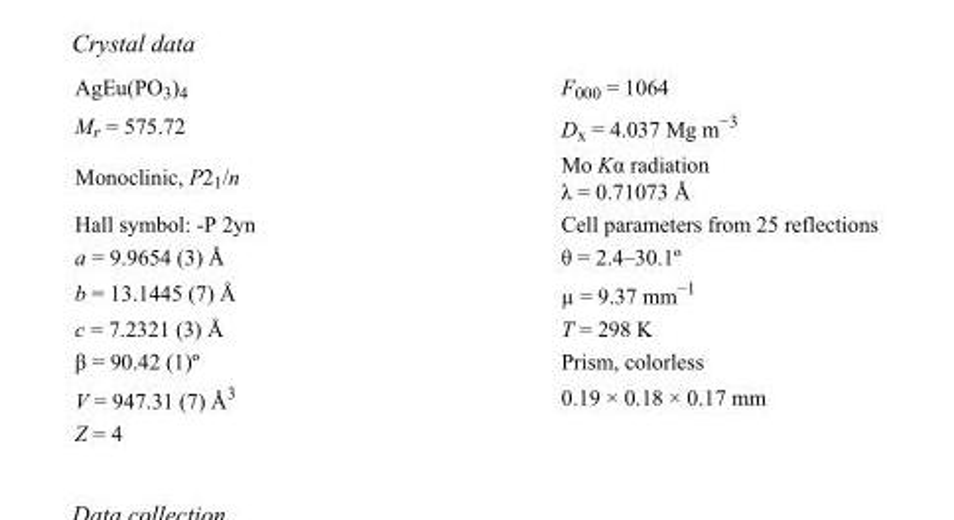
<table><tbody><tr><td>AgEu(PO<sub>3</sub>)<sub>4</sub></td><td>F000 = 1064</td></tr><tr><td>M<sub>r</sub> = 575.72</td><td>D<sub>x</sub> = 4.037 Mg m<sup>−3</sup></td></tr><tr><td>Monoclinic, P2<sub>1</sub>/n</td><td>Mo Kα radiation λ = 0.71073 Å</td></tr><tr><td>Hall symbol: -P 2yn</td><td>Cell parameters from 25 reflections</td></tr><tr><td>a = 9.9654 (3) Å</td><td>θ = 2.4–30.1º</td></tr><tr><td>b = 13.1445 (7) Å</td><td>µ = 9.37 mm<sup>−1</sup></td></tr><tr><td>c = 7.2321 (3) Å</td><td>T = 298 K</td></tr><tr><td>β = 90.42 (1)º</td><td>Prism, colorless</td></tr><tr><td>V = 947.31 (7) Å<sup>3</sup></td><td>0.19 × 0.18 × 0.17 mm</td></tr><tr><td>Z = 4</td><td></td></tr></tbody></table>